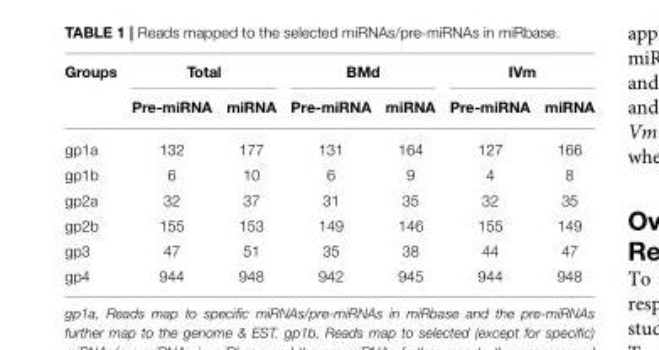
<table><thead><tr><td rowspan="2">Groups</td><td colspan="2">Total</td><td colspan="2">BMd</td><td colspan="2">IVm</td></tr><tr><td>Pre-miRNA</td><td>miRNA</td><td>Pre-miRNA</td><td>miRNA</td><td>Pre-miRNA</td><td>miRNA</td></tr></thead><tbody><tr><td>gp1a</td><td>132</td><td>177</td><td>131</td><td>164</td><td>127</td><td>166</td></tr><tr><td>gp1b</td><td>6</td><td>10</td><td>6</td><td>9</td><td>4</td><td>8</td></tr><tr><td>gp2a</td><td>32</td><td>37</td><td>31</td><td>35</td><td>32</td><td>35</td></tr><tr><td>gp2b</td><td>155</td><td>153</td><td>149</td><td>146</td><td>155</td><td>149</td></tr><tr><td>gp3</td><td>47</td><td>51</td><td>35</td><td>38</td><td>44</td><td>47</td></tr><tr><td>gp4</td><td>944</td><td>948</td><td>942</td><td>945</td><td>944</td><td>948</td></tr></tbody></table>